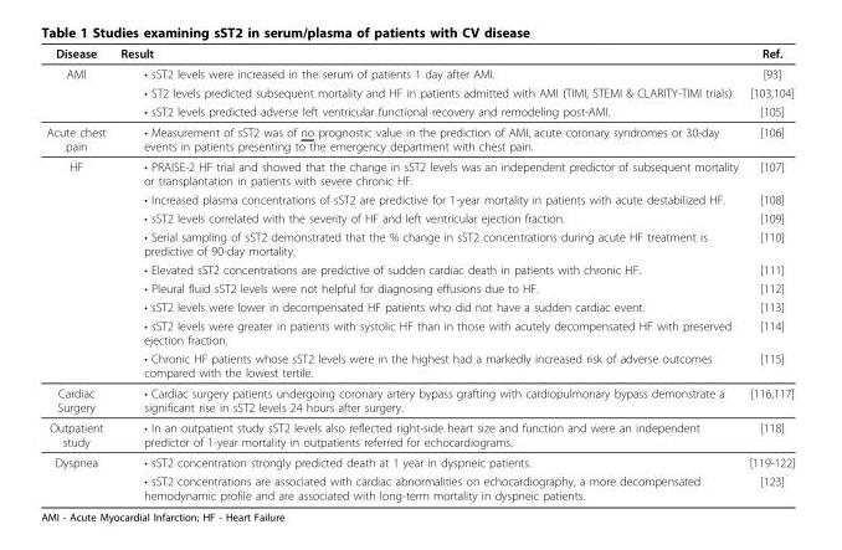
<table><thead><tr><td>Disease</td><td>Result</td><td>Ref.</td></tr></thead><tbody><tr><td rowspan="3">AMI</td><td>• sST2 levels were increased in the serum of patients 1 day after AMI.</td><td>[93]</td></tr><tr><td>• ST2 levels predicted subsequent mortality and HF in patients admitted with AMI (TIMI, STEMI &amp; CLARITY-TIMI trials).</td><td>[103,104]</td></tr><tr><td>• sST2 levels predicted adverse left ventricular functional recovery and remodeling post-AMI.</td><td>[105]</td></tr><tr><td>Acute chest pain</td><td>• Measurement of sST2 was of no prognostic value in the prediction of AMI, acute coronary syndromes or 30-day events in patients presenting to the emergency department with chest pain.</td><td>[106]</td></tr><tr><td rowspan="9">HF</td><td>• PRAISE-2 HF trial and showed that the change in sST2 levels was an independent predictor of subsequent mortality or transplantation in patients with severe chronic HF.</td><td>[107]</td></tr><tr><td>• Increased plasma concentrations of sST2 are predictive for 1-year mortality in patients with acute destabilized HF.</td><td>[108]</td></tr><tr><td>• sST2 levels correlated with the severity of HF and left ventricular ejection fraction.</td><td>[109]</td></tr><tr><td>• Serial sampling of sST2 demonstrated that the % change in sST2 concentrations during acute HF treatment is predictive of 90-day mortality.</td><td>[110]</td></tr><tr><td>• Elevated sST2 concentrations are predictive of sudden cardiac death in patients with chronic HF.</td><td>[111]</td></tr><tr><td>• Pleural fluid sST2 levels were not helpful for diagnosing effusions due to HF.</td><td>[112]</td></tr><tr><td>• sST2 levels were lower in decompensated HF patients who did not have a sudden cardiac event.</td><td>[113]</td></tr><tr><td>• sST2 levels were greater in patients with systolic HF than in those with acutely decompensated HF with preserved ejection fraction.</td><td>[114]</td></tr><tr><td>• Chronic HF patients whose sST2 levels were in the highest had a markedly increased risk of adverse outcomes compared with the lowest tertile.</td><td>[115]</td></tr><tr><td>Cardiac Surgery</td><td>• Cardiac surgery patients undergoing coronary artery bypass grafting with cardiopulmonary bypass demonstrate a significant rise in sST2 levels 24 hours after surgery.</td><td>[116,117]</td></tr><tr><td>Outpatient study</td><td>• In an outpatient study sST2 levels also reflected right-side heart size and function and were an independent predictor of 1-year mortality in outpatients referred for echocardiograms.</td><td>[118]</td></tr><tr><td rowspan="2">Dyspnea</td><td>• sST2 concentration strongly predicted death at 1 year in dyspneic patients.</td><td>[119-122]</td></tr><tr><td>• sST2 concentrations are associated with cardiac abnormalities on echocardiography, a more decompensated hemodynamic profile and are associated with long-term mortality in dyspneic patients.</td><td>[123]</td></tr></tbody></table>